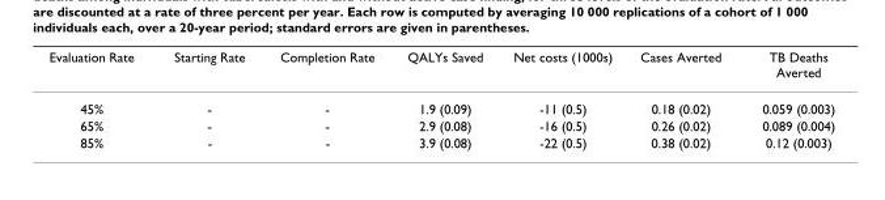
<table><thead><tr><td>Evaluation Rate</td><td>Starting Rate</td><td>Completion Rate</td><td>QALYs Saved</td><td>Net costs (1000s)</td><td>Cases Averted</td><td>TB Deaths Averted</td></tr></thead><tbody><tr><td>45%</td><td>-</td><td>-</td><td>1.9 (0.09)</td><td>-11 (0.5)</td><td>0.18 (0.02)</td><td>0.059 (0.003)</td></tr><tr><td>65%</td><td>-</td><td>-</td><td>2.9 (0.08)</td><td>-16 (0.5)</td><td>0.26 (0.02)</td><td>0.089 (0.004)</td></tr><tr><td>85%</td><td>-</td><td>-</td><td>3.9 (0.08)</td><td>-22 (0.5)</td><td>0.38 (0.02)</td><td>0.12 (0.003)</td></tr></tbody></table>